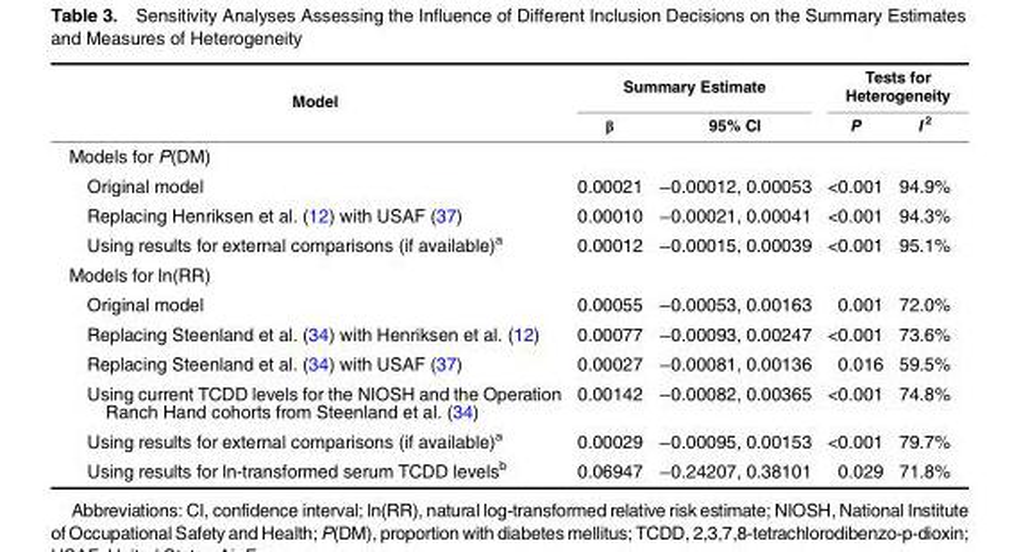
<table><thead><tr><td rowspan="2">Model</td><td colspan="2">Summary Estimate</td><td colspan="2">Tests for Heterogeneity</td></tr><tr><td>β</td><td>95% CI</td><td>P</td><td>I <sup>2</sup></td></tr></thead><tbody><tr><td colspan="5">Models for P(DM)</td></tr><tr><td>Original model</td><td>0.00021</td><td>−0.00012, 0.00053</td><td>&lt;0.001</td><td>94.9%</td></tr><tr><td>Replacing Henriksen et al. (12) with USAF (37)</td><td>0.00010</td><td>−0.00021, 0.00041</td><td>&lt;0.001</td><td>94.3%</td></tr><tr><td>Using results for external comparisons (if available)<sup>a</sup></td><td>0.00012</td><td>−0.00015, 0.00039</td><td>&lt;0.001</td><td>95.1%</td></tr><tr><td colspan="5">Models for ln(RR)</td></tr><tr><td>Original model</td><td>0.00055</td><td>−0.00053, 0.00163</td><td>0.001</td><td>72.0%</td></tr><tr><td>Replacing Steenland et al. (34) with Henriksen et al. (12)</td><td>0.00077</td><td>−0.00093, 0.00247</td><td>&lt;0.001</td><td>73.6%</td></tr><tr><td>Replacing Steenland et al. (34) with USAF (37)</td><td>0.00027</td><td>−0.00081, 0.00136</td><td>0.016</td><td>59.5%</td></tr><tr><td>Using current TCDD levels for the NIOSH and the Operation Ranch Hand cohorts from Steenland et al. (34)</td><td>0.00142</td><td>−0.00082, 0.00365</td><td>&lt;0.001</td><td>74.8%</td></tr><tr><td>Using results for external comparisons (if available)<sup>a</sup></td><td>0.00029</td><td>−0.00095, 0.00153</td><td>&lt;0.001</td><td>79.7%</td></tr><tr><td>Using results for ln-transformed serum TCDD levels<sup>b</sup></td><td>0.06947</td><td>−0.24207, 0.38101</td><td>0.029</td><td>71.8%</td></tr></tbody></table>